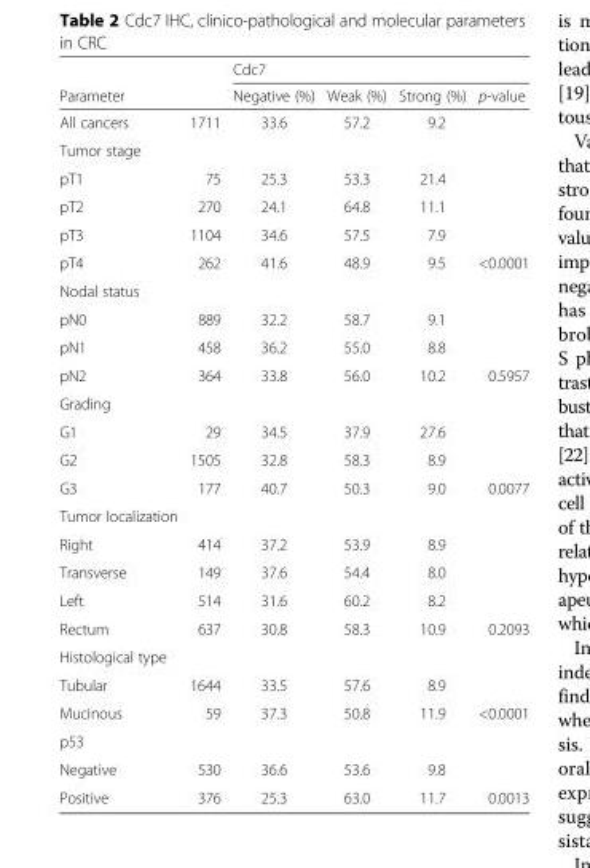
<table><thead><tr><td rowspan="2">Parameter</td><td rowspan="2"></td><td colspan="4">Cdc7</td></tr><tr><td>Negative (%)</td><td>Weak (%)</td><td>Strong (%)</td><td>p-value</td></tr></thead><tbody><tr><td>All cancers</td><td>1711</td><td>33.6</td><td>57.2</td><td>9.2</td><td></td></tr><tr><td colspan="6">Tumor stage</td></tr><tr><td>pT1</td><td>75</td><td>25.3</td><td>53.3</td><td>21.4</td><td></td></tr><tr><td>pT2</td><td>270</td><td>24.1</td><td>64.8</td><td>11.1</td><td></td></tr><tr><td>pT3</td><td>1104</td><td>34.6</td><td>57.5</td><td>7.9</td><td></td></tr><tr><td>pT4</td><td>262</td><td>41.6</td><td>48.9</td><td>9.5</td><td>&lt;0.0001</td></tr><tr><td colspan="6">Nodal status</td></tr><tr><td>pN0</td><td>889</td><td>32.2</td><td>58.7</td><td>9.1</td><td></td></tr><tr><td>pN1</td><td>458</td><td>36.2</td><td>55.0</td><td>8.8</td><td></td></tr><tr><td>pN2</td><td>364</td><td>33.8</td><td>56.0</td><td>10.2</td><td>0.5957</td></tr><tr><td colspan="6">Grading</td></tr><tr><td>G1</td><td>29</td><td>34.5</td><td>37.9</td><td>27.6</td><td></td></tr><tr><td>G2</td><td>1505</td><td>32.8</td><td>58.3</td><td>8.9</td><td></td></tr><tr><td>G3</td><td>177</td><td>40.7</td><td>50.3</td><td>9.0</td><td>0.0077</td></tr><tr><td colspan="6">Tumor localization</td></tr><tr><td>Right</td><td>414</td><td>37.2</td><td>53.9</td><td>8.9</td><td></td></tr><tr><td>Transverse</td><td>149</td><td>37.6</td><td>54.4</td><td>8.0</td><td></td></tr><tr><td>Left</td><td>514</td><td>31.6</td><td>60.2</td><td>8.2</td><td></td></tr><tr><td>Rectum</td><td>637</td><td>30.8</td><td>58.3</td><td>10.9</td><td>0.2093</td></tr><tr><td colspan="6">Histological type</td></tr><tr><td>Tubular</td><td>1644</td><td>33.5</td><td>57.6</td><td>8.9</td><td></td></tr><tr><td>Mucinous</td><td>59</td><td>37.3</td><td>50.8</td><td>11.9</td><td>&lt;0.0001</td></tr><tr><td colspan="6">p53</td></tr><tr><td>Negative</td><td>530</td><td>36.6</td><td>53.6</td><td>9.8</td><td></td></tr><tr><td>Positive</td><td>376</td><td>25.3</td><td>63.0</td><td>11.7</td><td>0.0013</td></tr></tbody></table>